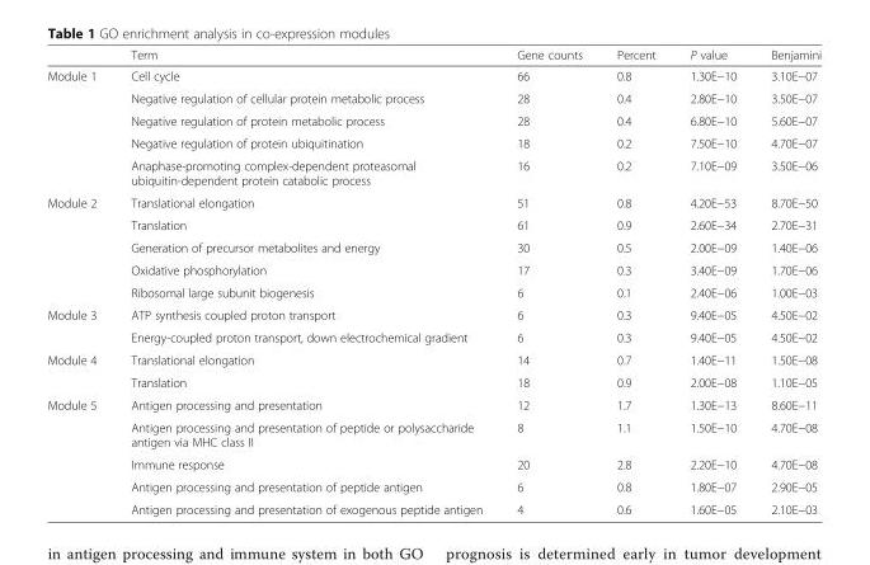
<table><thead><tr><td></td><td>Term</td><td>Gene counts</td><td>Percent</td><td>P value</td><td>Benjamini</td></tr></thead><tbody><tr><td rowspan="5">Module 1</td><td>Cell cycle</td><td>66</td><td>0.8</td><td>1.30E−10</td><td>3.10E−07</td></tr><tr><td>Negative regulation of cellular protein metabolic process</td><td>28</td><td>0.4</td><td>2.80E−10</td><td>3.50E−07</td></tr><tr><td>Negative regulation of protein metabolic process</td><td>28</td><td>0.4</td><td>6.80E−10</td><td>5.60E−07</td></tr><tr><td>Negative regulation of protein ubiquitination</td><td>18</td><td>0.2</td><td>7.50E−10</td><td>4.70E−07</td></tr><tr><td>Anaphase-promoting complex-dependent proteasomal ubiquitin-dependent protein catabolic process</td><td>16</td><td>0.2</td><td>7.10E−09</td><td>3.50E−06</td></tr><tr><td rowspan="5">Module 2</td><td>Translational elongation</td><td>51</td><td>0.8</td><td>4.20E−53</td><td>8.70E−50</td></tr><tr><td>Translation</td><td>61</td><td>0.9</td><td>2.60E−34</td><td>2.70E−31</td></tr><tr><td>Generation of precursor metabolites and energy</td><td>30</td><td>0.5</td><td>2.00E−09</td><td>1.40E−06</td></tr><tr><td>Oxidative phosphorylation</td><td>17</td><td>0.3</td><td>3.40E−09</td><td>1.70E−06</td></tr><tr><td>Ribosomal large subunit biogenesis</td><td>6</td><td>0.1</td><td>2.40E−06</td><td>1.00E−03</td></tr><tr><td rowspan="2">Module 3</td><td>ATP synthesis coupled proton transport</td><td>6</td><td>0.3</td><td>9.40E−05</td><td>4.50E−02</td></tr><tr><td>Energy-coupled proton transport, down electrochemical gradient</td><td>6</td><td>0.3</td><td>9.40E−05</td><td>4.50E−02</td></tr><tr><td rowspan="2">Module 4</td><td>Translational elongation</td><td>14</td><td>0.7</td><td>1.40E−11</td><td>1.50E−08</td></tr><tr><td>Translation</td><td>18</td><td>0.9</td><td>2.00E−08</td><td>1.10E−05</td></tr><tr><td rowspan="5">Module 5</td><td>Antigen processing and presentation</td><td>12</td><td>1.7</td><td>1.30E−13</td><td>8.60E−11</td></tr><tr><td>Antigen processing and presentation of peptide or polysaccharide antigen via MHC class II</td><td>8</td><td>1.1</td><td>1.50E−10</td><td>4.70E−08</td></tr><tr><td>Immune response</td><td>20</td><td>2.8</td><td>2.20E−10</td><td>4.70E−08</td></tr><tr><td>Antigen processing and presentation of peptide antigen</td><td>6</td><td>0.8</td><td>1.80E−07</td><td>2.90E−05</td></tr><tr><td>Antigen processing and presentation of exogenous peptide antigen</td><td>4</td><td>0.6</td><td>1.60E−05</td><td>2.10E−03</td></tr></tbody></table>